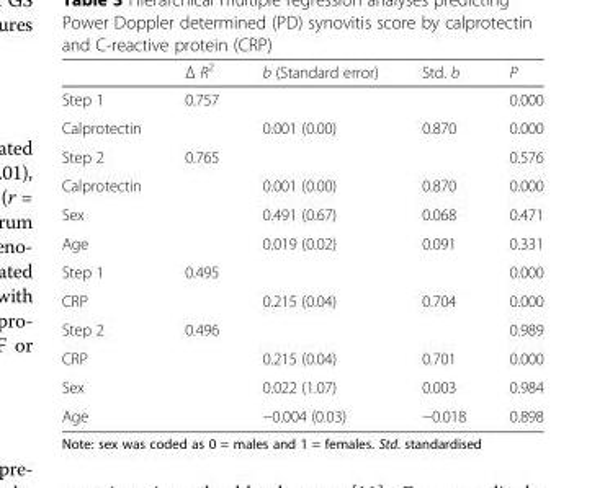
<table><thead><tr><td></td><td>Δ R<sup>2</sup></td><td>b (Standard error)</td><td>Std. b</td><td>P</td></tr></thead><tbody><tr><td>Step 1</td><td>0.757</td><td></td><td></td><td>0.000</td></tr><tr><td>Calprotectin</td><td></td><td>0.001 (0.00)</td><td>0.870</td><td>0.000</td></tr><tr><td>Step 2</td><td>0.765</td><td></td><td></td><td>0.576</td></tr><tr><td>Calprotectin</td><td></td><td>0.001 (0.00)</td><td>0.870</td><td>0.000</td></tr><tr><td>Sex</td><td></td><td>0.491 (0.67)</td><td>0.068</td><td>0.471</td></tr><tr><td>Age</td><td></td><td>0.019 (0.02)</td><td>0.091</td><td>0.331</td></tr><tr><td>Step 1</td><td>0.495</td><td></td><td></td><td>0.000</td></tr><tr><td>CRP</td><td></td><td>0.215 (0.04)</td><td>0.704</td><td>0.000</td></tr><tr><td>Step 2</td><td>0.496</td><td></td><td></td><td>0.989</td></tr><tr><td>CRP</td><td></td><td>0.215 (0.04)</td><td>0.701</td><td>0.000</td></tr><tr><td>Sex</td><td></td><td>0.022 (1.07)</td><td>0.003</td><td>0.984</td></tr><tr><td>Age</td><td></td><td>−0.004 (0.03)</td><td>−0.018</td><td>0.898</td></tr></tbody></table>